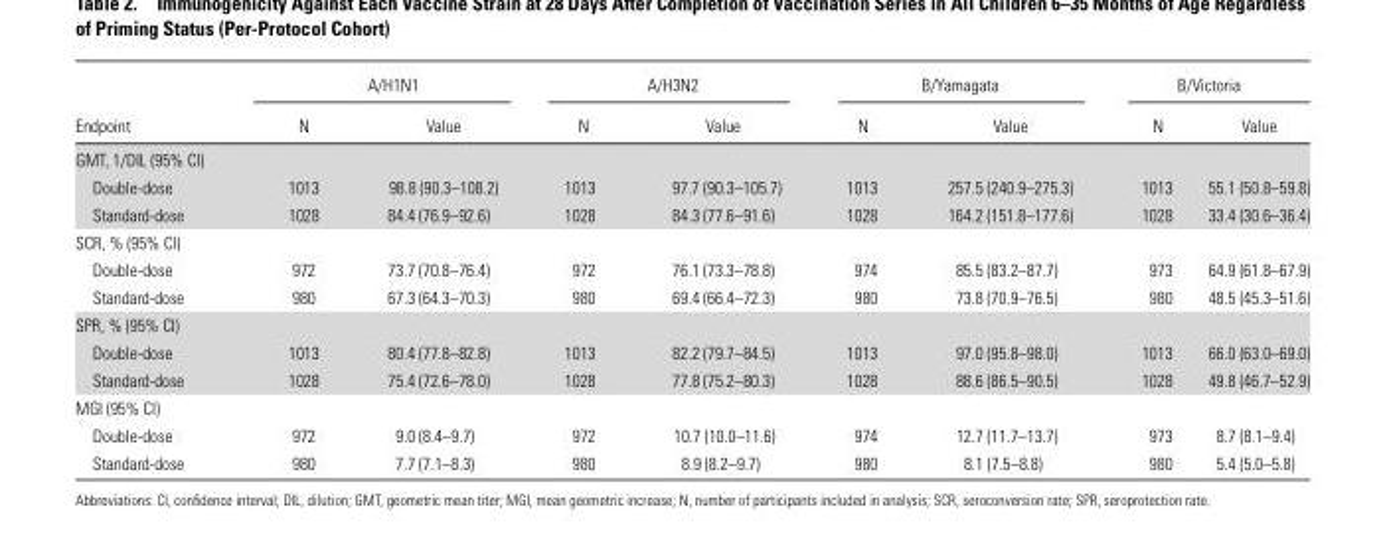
<table><thead><tr><td rowspan="2">Endpoint</td><td colspan="2">A/H1N1</td><td colspan="2">A/H3N2</td><td colspan="2">B/Yamagata</td><td colspan="2">B/Victoria</td></tr><tr><td>N</td><td>Value</td><td>N</td><td>Value</td><td>N</td><td>Value</td><td>N</td><td>Value</td></tr></thead><tbody><tr><td colspan="9">GMT, 1/DIL (95% CI)</td></tr><tr><td>Double-dose</td><td>1013</td><td>98.8 (90.3–108.2)</td><td>1013</td><td>97.7 (90.3–105.7)</td><td>1013</td><td>257.5 (240.9–275.3)</td><td>1013</td><td>55.1 (50.8–59.8)</td></tr><tr><td>Standard-dose</td><td>1028</td><td>84.4 (76.9–92.6)</td><td>1028</td><td>84.3 (77.6–91.6)</td><td>1028</td><td>164.2 (151.8–177.6)</td><td>1028</td><td>33.4 (30.6–36.4)</td></tr><tr><td colspan="9">SCR, % (95% CI)</td></tr><tr><td>Double-dose</td><td>972</td><td>73.7 (70.8–76.4)</td><td>972</td><td>76.1 (73.3–78.8)</td><td>974</td><td>85.5 (83.2–87.7)</td><td>973</td><td>64.9 (61.8–67.9)</td></tr><tr><td>Standard-dose</td><td>980</td><td>67.3 (64.3–70.3)</td><td>980</td><td>69.4 (66.4–72.3)</td><td>980</td><td>73.8 (70.9–76.5)</td><td>980</td><td>48.5 (45.3–51.6)</td></tr><tr><td colspan="9">SPR, % (95% CI)</td></tr><tr><td>Double-dose</td><td>1013</td><td>80.4 (77.8–82.8)</td><td>1013</td><td>82.2 (79.7–84.5)</td><td>1013</td><td>97.0 (95.8–98.0)</td><td>1013</td><td>66.0 (63.0–69.0)</td></tr><tr><td>Standard-dose</td><td>1028</td><td>75.4 (72.6–78.0)</td><td>1028</td><td>77.8 (75.2–80.3)</td><td>1028</td><td>88.6 (86.5–90.5)</td><td>1028</td><td>49.8 (46.7–52.9)</td></tr><tr><td colspan="9">MGI (95% CI)</td></tr><tr><td>Double-dose</td><td>972</td><td>9.0 (8.4–9.7)</td><td>972</td><td>10.7 (10.0–11.6)</td><td>974</td><td>12.7 (11.7–13.7)</td><td>973</td><td>8.7 (8.1–9.4)</td></tr><tr><td>Standard-dose</td><td>980</td><td>7.7 (7.1–8.3)</td><td>980</td><td>8.9 (8.2–9.7)</td><td>980</td><td>8.1 (7.5–8.8)</td><td>980</td><td>5.4 (5.0–5.8)</td></tr></tbody></table>